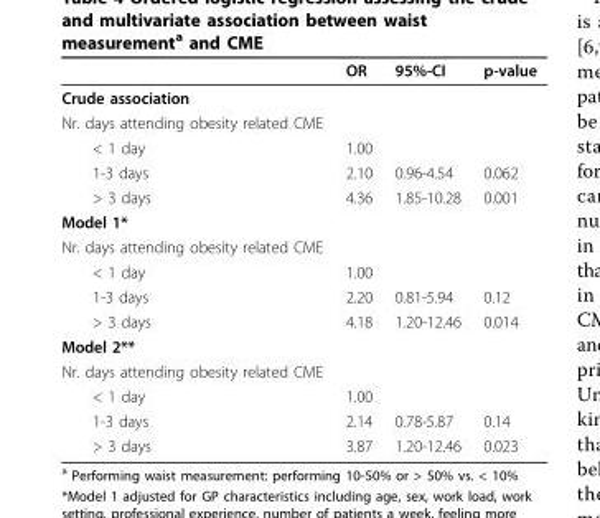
<table><thead><tr><td></td><td>OR</td><td>95%-CI</td><td>p-value</td></tr></thead><tbody><tr><td colspan="4">Crude association</td></tr><tr><td colspan="4">Nr. days attending obesity related CME</td></tr><tr><td>&lt; 1 day</td><td>1.00</td><td></td><td></td></tr><tr><td>1-3 days</td><td>2.10</td><td>0.96-4.54</td><td>0.062</td></tr><tr><td>&gt; 3 days</td><td>4.36</td><td>1.85-10.28</td><td>0.001</td></tr><tr><td colspan="4">Model 1*</td></tr><tr><td colspan="4">Nr. days attending obesity related CME</td></tr><tr><td>&lt; 1 day</td><td>1.00</td><td></td><td></td></tr><tr><td>1-3 days</td><td>2.20</td><td>0.81-5.94</td><td>0.12</td></tr><tr><td>&gt; 3 days</td><td>4.18</td><td>1.20-12.46</td><td>0.014</td></tr><tr><td colspan="4">Model 2**</td></tr><tr><td colspan="4">Nr. days attending obesity related CME</td></tr><tr><td>&lt; 1 day</td><td>1.00</td><td></td><td></td></tr><tr><td>1-3 days</td><td>2.14</td><td>0.78-5.87</td><td>0.14</td></tr><tr><td>&gt; 3 days</td><td>3.87</td><td>1.20-12.46</td><td>0.023</td></tr></tbody></table>